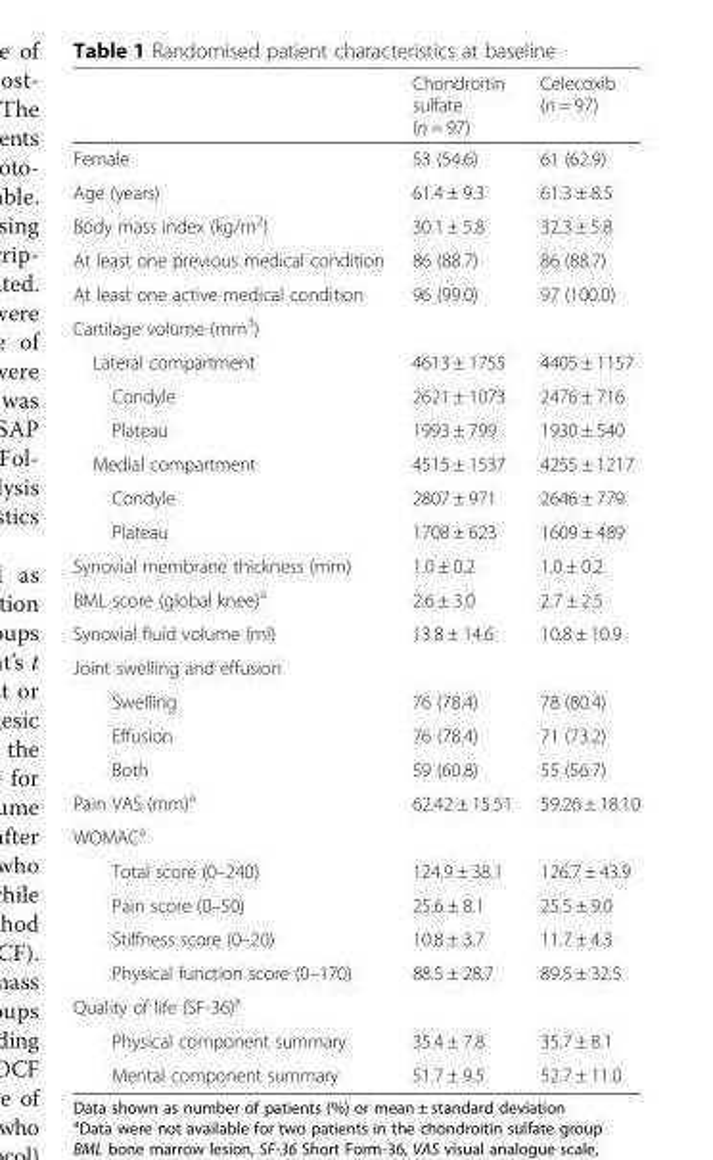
<table><thead><tr><td></td><td>Chondroitin sulfate (n = 97)</td><td>Celecoxib (n = 97)</td></tr></thead><tbody><tr><td>Female</td><td>53 (54.6)</td><td>61 (62.9)</td></tr><tr><td>Age (years)</td><td>61.4 ± 9.3</td><td>61.3 ± 8.5</td></tr><tr><td>Body mass index (kg/m<sup>2</sup>)</td><td>30.1 ± 5.8</td><td>32.3 ± 5.8</td></tr><tr><td>At least one previous medical condition</td><td>86 (88.7)</td><td>86 (88.7)</td></tr><tr><td>At least one active medical condition</td><td>96 (99.0)</td><td>97 (100.0)</td></tr><tr><td colspan="3">Cartilage volume (mm<sup>3</sup>)</td></tr><tr><td>Lateral compartment</td><td>4613 ± 1755</td><td>4405 ± 1157</td></tr><tr><td>Condyle</td><td>2621 ± 1073</td><td>2476 ± 716</td></tr><tr><td>Plateau</td><td>1993 ± 799</td><td>1930 ± 540</td></tr><tr><td>Medial compartment</td><td>4515 ± 1537</td><td>4255 ± 1217</td></tr><tr><td>Condyle</td><td>2807 ± 971</td><td>2646 ± 779</td></tr><tr><td>Plateau</td><td>1708 ± 623</td><td>1609 ± 489</td></tr><tr><td>Synovial membrane thickness (mm)</td><td>1.0 ± 0.2</td><td>1.0 ± 0.2</td></tr><tr><td>BML score (global knee)<sup>a</sup></td><td>2.6 ± 3.0</td><td>2.7 ± 2.5</td></tr><tr><td>Synovial fluid volume (ml)</td><td>13.8 ± 14.6</td><td>10.8 ± 10.9</td></tr><tr><td colspan="3">Joint swelling and effusion</td></tr><tr><td>Swelling</td><td>76 (78.4)</td><td>78 (80.4)</td></tr><tr><td>Effusion</td><td>76 (78.4)</td><td>71 (73.2)</td></tr><tr><td>Both</td><td>59 (60.8)</td><td>55 (56.7)</td></tr><tr><td>Pain VAS (mm)<sup>a</sup></td><td>62.42 ± 15.51</td><td>59.26 ± 18.10</td></tr><tr><td colspan="3">WOMAC<sup>a</sup></td></tr><tr><td>Total score (0–240)</td><td>124.9 ± 38.1</td><td>126.7 ± 43.9</td></tr><tr><td>Pain score (0–50)</td><td>25.6 ± 8.1</td><td>25.5 ± 9.0</td></tr><tr><td>Stiffness score (0–20)</td><td>10.8 ± 3.7</td><td>11.7 ± 4.3</td></tr><tr><td>Physical function score (0–170)</td><td>88.5 ± 28.7</td><td>89.5 ± 32.5</td></tr><tr><td colspan="3">Quality of life (SF-36)<sup>a</sup></td></tr><tr><td>Physical component summary</td><td>35.4 ± 7.8</td><td>35.7 ± 8.1</td></tr><tr><td>Mental component summary</td><td>51.7 ± 9.5</td><td>52.7 ± 11.0</td></tr></tbody></table>